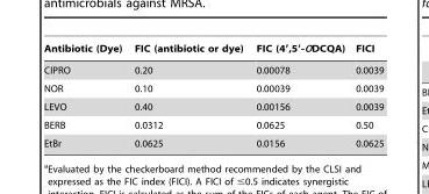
<table><thead><tr><td>Antibiotic (Dye)</td><td>FIC (antibiotic or dye)</td><td>FIC (4′,5′-ODCQA)</td><td>FICI</td></tr></thead><tbody><tr><td>CIPRO</td><td>0.20</td><td>0.00078</td><td>0.0039</td></tr><tr><td>NOR</td><td>0.10</td><td>0.00039</td><td>0.0039</td></tr><tr><td>LEVO</td><td>0.40</td><td>0.00156</td><td>0.0039</td></tr><tr><td>BERB</td><td>0.0312</td><td>0.0625</td><td>0.50</td></tr><tr><td>EtBr</td><td>0.0625</td><td>0.0156</td><td>0.0625</td></tr></tbody></table>